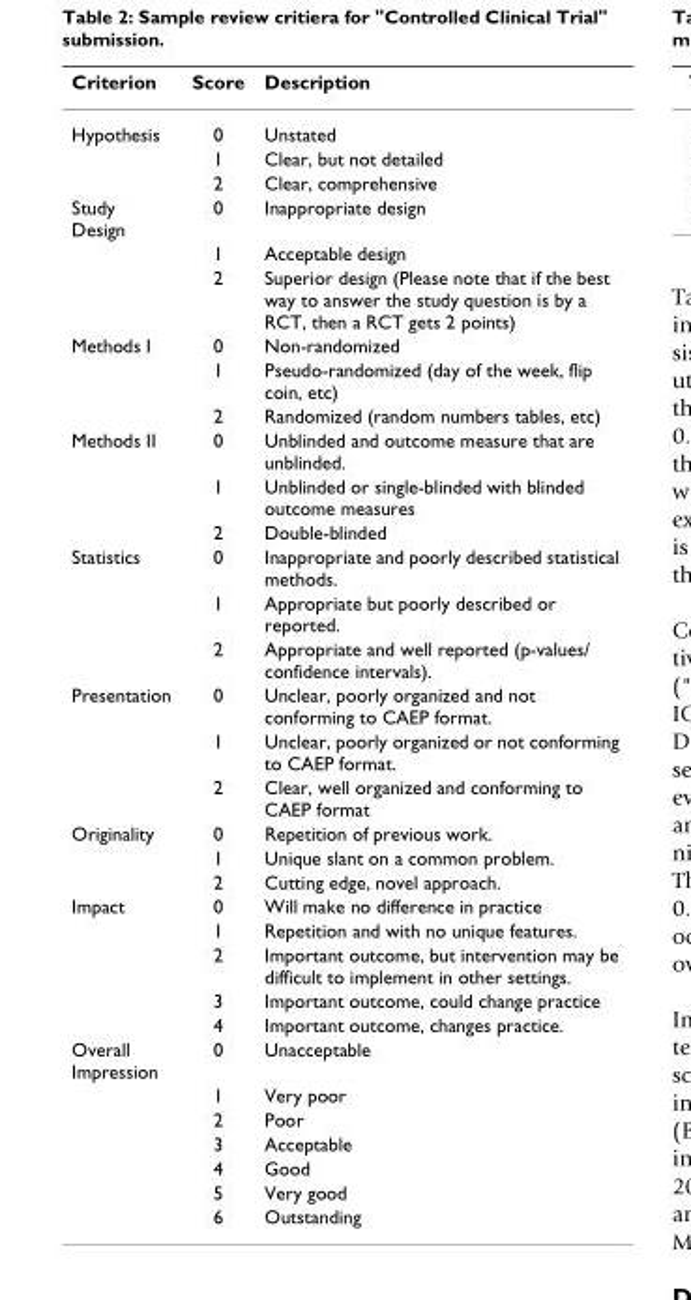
<table><thead><tr><td>Criterion</td><td>Score</td><td>Description</td></tr></thead><tbody><tr><td rowspan="3">Hypothesis</td><td>0</td><td>Unstated</td></tr><tr><td>1</td><td>Clear, but not detailed</td></tr><tr><td>2</td><td>Clear, comprehensive</td></tr><tr><td rowspan="3">Study Design</td><td>0</td><td>Inappropriate design</td></tr><tr><td>1</td><td>Acceptable design</td></tr><tr><td>2</td><td>Superior design (Please note that if the best way to answer the study question is by a RCT, then a RCT gets 2 points)</td></tr><tr><td rowspan="3">Methods I</td><td>0</td><td>Non-randomized</td></tr><tr><td>1</td><td>Pseudo-randomized (day of the week, flip coin, etc)</td></tr><tr><td>2</td><td>Randomized (random numbers tables, etc)</td></tr><tr><td rowspan="3">Methods II</td><td>0</td><td>Unblinded and outcome measure that are unblinded.</td></tr><tr><td>1</td><td>Unblinded or single-blinded with blinded outcome measures</td></tr><tr><td>2</td><td>Double-blinded</td></tr><tr><td rowspan="3">Statistics</td><td>0</td><td>Inappropriate and poorly described statistical methods.</td></tr><tr><td>1</td><td>Appropriate but poorly described or reported.</td></tr><tr><td>2</td><td>Appropriate and well reported (p-values/ confidence intervals).</td></tr><tr><td rowspan="3">Presentation</td><td>0</td><td>Unclear, poorly organized and not conforming to CAEP format.</td></tr><tr><td>1</td><td>Unclear, poorly organized or not conforming to CAEP format.</td></tr><tr><td>2</td><td>Clear, well organized and conforming to CAEP format</td></tr><tr><td rowspan="3">Originality</td><td>0</td><td>Repetition of previous work.</td></tr><tr><td>1</td><td>Unique slant on a common problem.</td></tr><tr><td>2</td><td>Cutting edge, novel approach.</td></tr><tr><td rowspan="5">Impact</td><td>0</td><td>Will make no difference in practice</td></tr><tr><td>1</td><td>Repetition and with no unique features.</td></tr><tr><td>2</td><td>Important outcome, but intervention may be difficult to implement in other settings.</td></tr><tr><td>3</td><td>Important outcome, could change practice</td></tr><tr><td>4</td><td>Important outcome, changes practice.</td></tr><tr><td rowspan="7">Overall Impression</td><td>0</td><td>Unacceptable</td></tr><tr><td>1</td><td>Very poor</td></tr><tr><td>2</td><td>Poor</td></tr><tr><td>3</td><td>Acceptable</td></tr><tr><td>4</td><td>Good</td></tr><tr><td>5</td><td>Very good</td></tr><tr><td>6</td><td>Outstanding</td></tr></tbody></table>